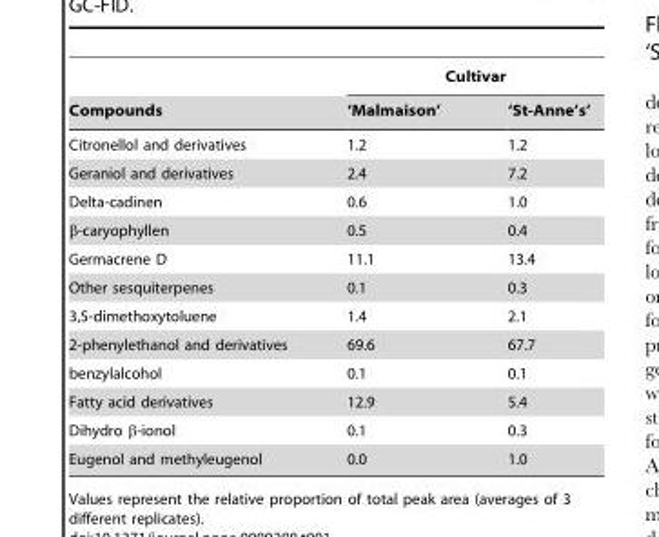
<table><thead><tr><td rowspan="2">Compounds</td><td colspan="2">Cultivar</td></tr><tr><td>‘Malmaison’</td><td>‘St-Anne’s’</td></tr></thead><tbody><tr><td>Citronellol and derivatives</td><td>1.2</td><td>1.2</td></tr><tr><td>Geraniol and derivatives</td><td>2.4</td><td>7.2</td></tr><tr><td>Delta-cadinen</td><td>0.6</td><td>1.0</td></tr><tr><td>β-caryophyllen</td><td>0.5</td><td>0.4</td></tr><tr><td>Germacrene D</td><td>11.1</td><td>13.4</td></tr><tr><td>Other sesquiterpenes</td><td>0.1</td><td>0.3</td></tr><tr><td>3,5-dimethoxytoluene</td><td>1.4</td><td>2.1</td></tr><tr><td>2-phenylethanol and derivatives</td><td>69.6</td><td>67.7</td></tr><tr><td>benzylalcohol</td><td>0.1</td><td>0.1</td></tr><tr><td>Fatty acid derivatives</td><td>12.9</td><td>5.4</td></tr><tr><td>Dihydro β-ionol</td><td>0.1</td><td>0.3</td></tr><tr><td>Eugenol and methyleugenol</td><td>0.0</td><td>1.0</td></tr></tbody></table>